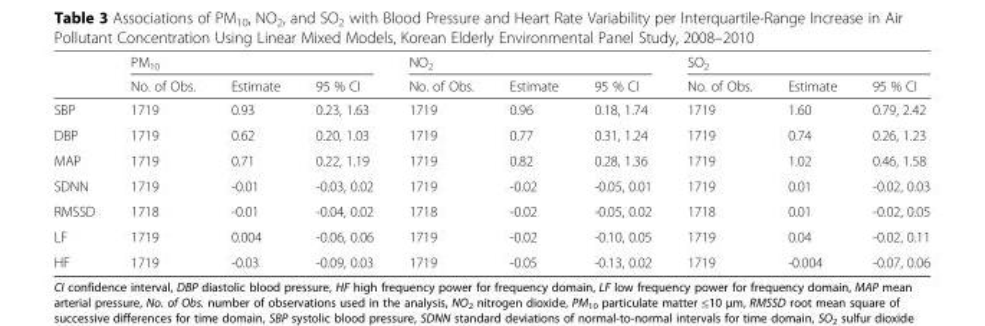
<table><thead><tr><td rowspan="2"></td><td colspan="3">PM<sub>10</sub></td><td colspan="3">NO<sub>2</sub></td><td colspan="3">SO<sub>2</sub></td></tr><tr><td>No. of Obs.</td><td>Estimate</td><td>95 % CI</td><td>No. of Obs.</td><td>Estimate</td><td>95 % CI</td><td>No. of Obs.</td><td>Estimate</td><td>95 % CI</td></tr></thead><tbody><tr><td>SBP</td><td>1719</td><td>0.93</td><td>0.23, 1.63</td><td>1719</td><td>0.96</td><td>0.18, 1.74</td><td>1719</td><td>1.60</td><td>0.79, 2.42</td></tr><tr><td>DBP</td><td>1719</td><td>0.62</td><td>0.20, 1.03</td><td>1719</td><td>0.77</td><td>0.31, 1.24</td><td>1719</td><td>0.74</td><td>0.26, 1.23</td></tr><tr><td>MAP</td><td>1719</td><td>0.71</td><td>0.22, 1.19</td><td>1719</td><td>0.82</td><td>0.28, 1.36</td><td>1719</td><td>1.02</td><td>0.46, 1.58</td></tr><tr><td>SDNN</td><td>1719</td><td>-0.01</td><td>-0.03, 0.02</td><td>1719</td><td>-0.02</td><td>-0.05, 0.01</td><td>1719</td><td>0.01</td><td>-0.02, 0.03</td></tr><tr><td>RMSSD</td><td>1718</td><td>-0.01</td><td>-0.04, 0.02</td><td>1718</td><td>-0.02</td><td>-0.05, 0.02</td><td>1718</td><td>0.01</td><td>-0.02, 0.05</td></tr><tr><td>LF</td><td>1719</td><td>0.004</td><td>-0.06, 0.06</td><td>1719</td><td>-0.02</td><td>-0.10, 0.05</td><td>1719</td><td>0.04</td><td>-0.02, 0.11</td></tr><tr><td>HF</td><td>1719</td><td>-0.03</td><td>-0.09, 0.03</td><td>1719</td><td>-0.05</td><td>-0.13, 0.02</td><td>1719</td><td>-0.004</td><td>-0.07, 0.06</td></tr></tbody></table>